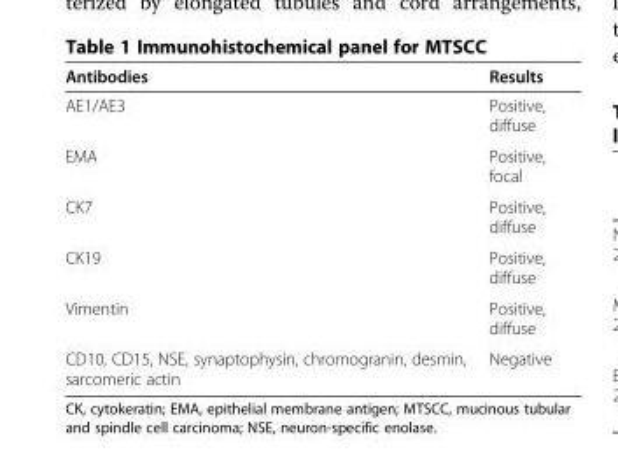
<table><thead><tr><td>Antibodies</td><td>Results</td></tr></thead><tbody><tr><td>AE1/AE3</td><td>Positive, diffuse</td></tr><tr><td>EMA</td><td>Positive, focal</td></tr><tr><td>CK7</td><td>Positive, diffuse</td></tr><tr><td>CK19</td><td>Positive, diffuse</td></tr><tr><td>Vimentin</td><td>Positive, diffuse</td></tr><tr><td>CD10, CD15, NSE, synaptophysin, chromogranin, desmin, sarcomeric actin</td><td>Negative</td></tr></tbody></table>